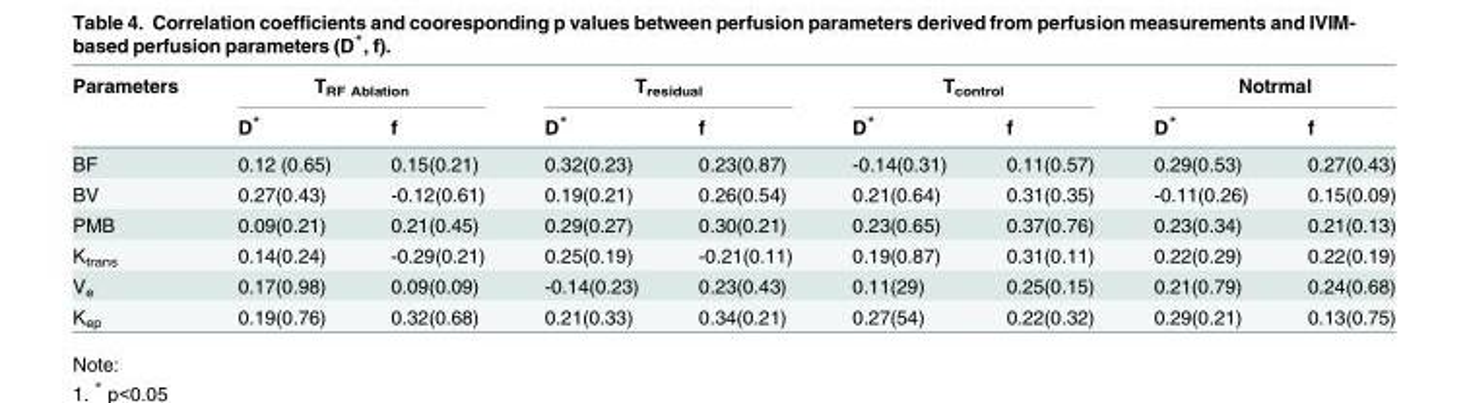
<table><thead><tr><td rowspan="2">Parameters</td><td colspan="2">T<sub>RF Ablation</sub></td><td colspan="2">T<sub>residual</sub></td><td colspan="2">T<sub>control</sub></td><td colspan="2">Notrmal</td></tr><tr><td>D*</td><td>f</td><td>D*</td><td>f</td><td>D*</td><td>f</td><td>D*</td><td>f</td></tr></thead><tbody><tr><td>BF</td><td>0.12 (0.65)</td><td>0.15(0.21)</td><td>0.32(0.23)</td><td>0.23(0.87)</td><td>-0.14(0.31)</td><td>0.11(0.57)</td><td>0.29(0.53)</td><td>0.27(0.43)</td></tr><tr><td>BV</td><td>0.27(0.43)</td><td>-0.12(0.61)</td><td>0.19(0.21)</td><td>0.26(0.54)</td><td>0.21(0.64)</td><td>0.31(0.35)</td><td>-0.11(0.26)</td><td>0.15(0.09)</td></tr><tr><td>PMB</td><td>0.09(0.21)</td><td>0.21(0.45)</td><td>0.29(0.27)</td><td>0.30(0.21)</td><td>0.23(0.65)</td><td>0.37(0.76)</td><td>0.23(0.34)</td><td>0.21(0.13)</td></tr><tr><td>K<sub>trans</sub></td><td>0.14(0.24)</td><td>-0.29(0.21)</td><td>0.25(0.19)</td><td>-0.21(0.11)</td><td>0.19(0.87)</td><td>0.31(0.11)</td><td>0.22(0.29)</td><td>0.22(0.19)</td></tr><tr><td>V<sub>e</sub></td><td>0.17(0.98)</td><td>0.09(0.09)</td><td>-0.14(0.23)</td><td>0.23(0.43)</td><td>0.11(29)</td><td>0.25(0.15)</td><td>0.21(0.79)</td><td>0.24(0.68)</td></tr><tr><td>K<sub>ep</sub></td><td>0.19(0.76)</td><td>0.32(0.68)</td><td>0.21(0.33)</td><td>0.34(0.21)</td><td>0.27(54)</td><td>0.22(0.32)</td><td>0.29(0.21)</td><td>0.13(0.75)</td></tr></tbody></table>